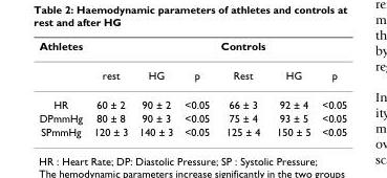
<table><thead><tr><td>Athletes</td><td></td><td></td><td></td><td>Controls</td><td></td><td></td></tr></thead><tbody><tr><td></td><td>rest</td><td>HG</td><td>p</td><td>Rest</td><td>HG</td><td>p</td></tr><tr><td>HR</td><td>60 ± 2</td><td>90 ± 2</td><td>&lt;0.05</td><td>66 ± 3</td><td>92 ± 4</td><td>&lt;0.05</td></tr><tr><td>DPmmHg</td><td>80 ± 8</td><td>90 ± 3</td><td>&lt;0.05</td><td>75 ± 4</td><td>93 ± 5</td><td>&lt;0.05</td></tr><tr><td>SPmmHg</td><td>120 ± 3</td><td>140 ± 3</td><td>&lt;0.05</td><td>125 ± 4</td><td>150 ± 5</td><td>&lt;0.05</td></tr></tbody></table>